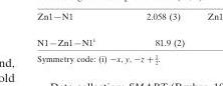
<table><tbody><tr><td>N1—Zn1—N1<sup>i</sup></td><td>81.9 (2)</td></tr></tbody></table>